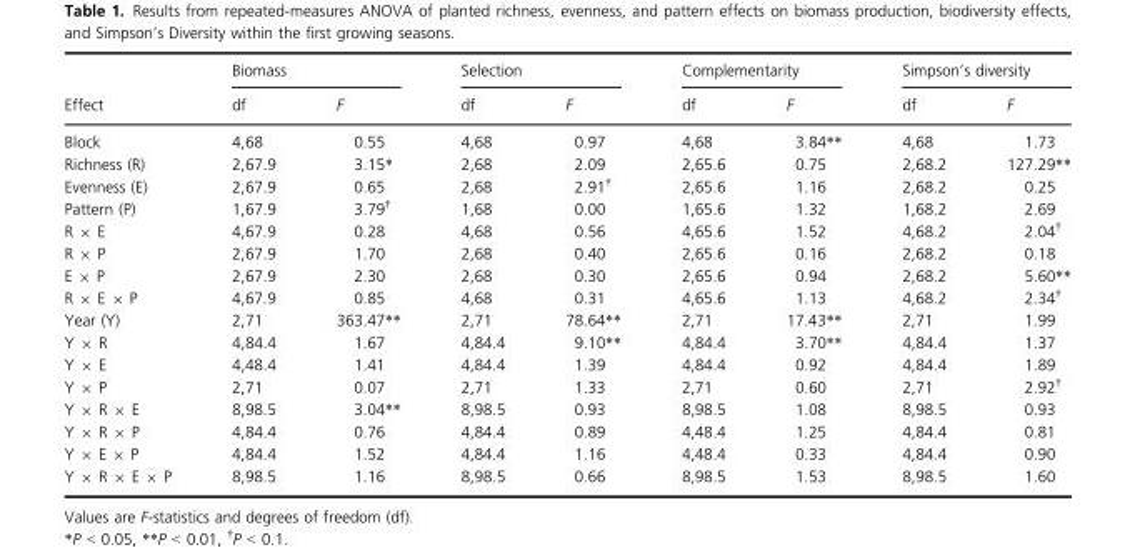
<table><thead><tr><td rowspan="2">Effect</td><td colspan="2">Biomass</td><td colspan="2">Selection</td><td colspan="2">Complementarity</td><td colspan="2">Simpson’s diversity</td></tr><tr><td>df</td><td>F</td><td>df</td><td>F</td><td>df</td><td>F</td><td>df</td><td>F</td></tr></thead><tbody><tr><td>Block</td><td>4,68</td><td>0.55</td><td>4,68</td><td>0.97</td><td>4,68</td><td>3.84**</td><td>4,68</td><td>1.73</td></tr><tr><td>Richness (R)</td><td>2,67.9</td><td>3.15*</td><td>2,68</td><td>2.09</td><td>2,65.6</td><td>0.75</td><td>2,68.2</td><td>127.29**</td></tr><tr><td>Evenness (E)</td><td>2,67.9</td><td>0.65</td><td>2,68</td><td>2.91†</td><td>2,65.6</td><td>1.16</td><td>2,68.2</td><td>0.25</td></tr><tr><td>Pattern (P)</td><td>1,67.9</td><td>3.79†</td><td>1,68</td><td>0.00</td><td>1,65.6</td><td>1.32</td><td>1,68.2</td><td>2.69</td></tr><tr><td>R × E</td><td>4,67.9</td><td>0.28</td><td>4,68</td><td>0.56</td><td>4,65.6</td><td>1.52</td><td>4,68.2</td><td>2.04†</td></tr><tr><td>R × P</td><td>2,67.9</td><td>1.70</td><td>2,68</td><td>0.40</td><td>2,65.6</td><td>0.16</td><td>2,68.2</td><td>0.18</td></tr><tr><td>E × P</td><td>2,67.9</td><td>2.30</td><td>2,68</td><td>0.30</td><td>2,65.6</td><td>0.94</td><td>2,68.2</td><td>5.60**</td></tr><tr><td>R × E × P</td><td>4,67.9</td><td>0.85</td><td>4,68</td><td>0.31</td><td>4,65.6</td><td>1.13</td><td>4,68.2</td><td>2.34†</td></tr><tr><td>Year (Y)</td><td>2,71</td><td>363.47**</td><td>2,71</td><td>78.64**</td><td>2,71</td><td>17.43**</td><td>2,71</td><td>1.99</td></tr><tr><td>Y × R</td><td>4,84.4</td><td>1.67</td><td>4,84.4</td><td>9.10**</td><td>4,84.4</td><td>3.70**</td><td>4,84.4</td><td>1.37</td></tr><tr><td>Y × E</td><td>4,48.4</td><td>1.41</td><td>4,84.4</td><td>1.39</td><td>4,84.4</td><td>0.92</td><td>4,84.4</td><td>1.89</td></tr><tr><td>Y × P</td><td>2,71</td><td>0.07</td><td>2,71</td><td>1.33</td><td>2,71</td><td>0.60</td><td>2,71</td><td>2.92†</td></tr><tr><td>Y × R × E</td><td>8,98.5</td><td>3.04**</td><td>8,98.5</td><td>0.93</td><td>8,98.5</td><td>1.08</td><td>8,98.5</td><td>0.93</td></tr><tr><td>Y × R × P</td><td>4,84.4</td><td>0.76</td><td>4,84.4</td><td>0.89</td><td>4,48.4</td><td>1.25</td><td>4,84.4</td><td>0.81</td></tr><tr><td>Y × E × P</td><td>4,84.4</td><td>1.52</td><td>4,84.4</td><td>1.16</td><td>4,48.4</td><td>0.33</td><td>4,84.4</td><td>0.90</td></tr><tr><td>Y × R × E × P</td><td>8,98.5</td><td>1.16</td><td>8,98.5</td><td>0.66</td><td>8,98.5</td><td>1.53</td><td>8,98.5</td><td>1.60</td></tr></tbody></table>